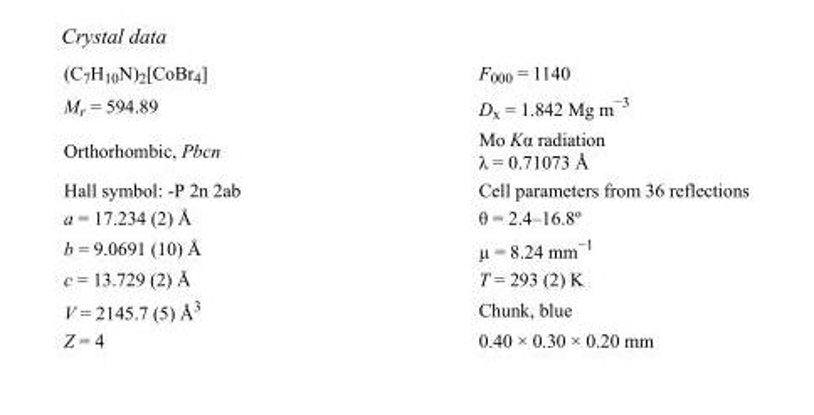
<table><tbody><tr><td>(C<sub>7</sub>H<sub>10</sub>N)<sub>2</sub>[CoBr<sub>4</sub>]</td><td>F<sub>000</sub> = 1140</td></tr><tr><td>M<sub>r</sub> = 594.89</td><td>D<sub>x</sub> = 1.842 Mg m<sup>−3</sup></td></tr><tr><td>Orthorhombic, Pbcn</td><td>Mo Kα radiation λ = 0.71073 Å</td></tr><tr><td>Hall symbol: -P 2n 2ab</td><td>Cell parameters from 36 reflections</td></tr><tr><td>a = 17.234 (2) Å</td><td>θ = 2.4–16.8º</td></tr><tr><td>b = 9.0691 (10) Å</td><td>µ = 8.24 mm<sup>−1</sup></td></tr><tr><td>c = 13.729 (2) Å</td><td>T = 293 (2) K</td></tr><tr><td>V = 2145.7 (5) Å<sup>3</sup></td><td>Chunk, blue</td></tr><tr><td>Z = 4</td><td>0.40 × 0.30 × 0.20 mm</td></tr></tbody></table>